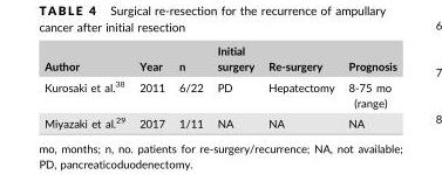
<table><thead><tr><td>Author</td><td>Year</td><td>n</td><td>Initial surgery</td><td>Re-surgery</td><td>Prognosis</td></tr></thead><tbody><tr><td>Kurosaki et al.<sup>38</sup></td><td>2011</td><td>6/22</td><td>PD</td><td>Hepatectomy</td><td>8-75 mo (range)</td></tr><tr><td>Miyazaki et al.<sup>29</sup></td><td>2017</td><td>1/11</td><td>NA</td><td>NA</td><td>NA</td></tr></tbody></table>